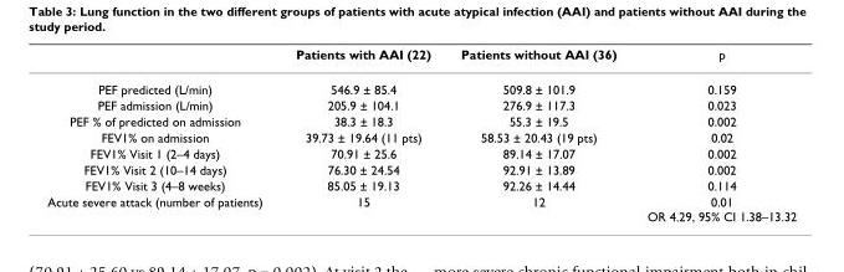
<table><thead><tr><td></td><td>Patients with AAI (22)</td><td>Patients without AAI (36)</td><td>p</td></tr></thead><tbody><tr><td>PEF predicted (L/min)</td><td>546.9 ± 85.4</td><td>509.8 ± 101.9</td><td>0.159</td></tr><tr><td>PEF admission (L/min)</td><td>205.9 ± 104.1</td><td>276.9 ± 117.3</td><td>0.023</td></tr><tr><td>PEF % of predicted on admission</td><td>38.3 ± 18.3</td><td>55.3 ± 19.5</td><td>0.002</td></tr><tr><td>FEV1% on admission</td><td>39.73 ± 19.64 (11 pts)</td><td>58.53 ± 20.43 (19 pts)</td><td>0.02</td></tr><tr><td>FEV1% Visit 1 (2–4 days)</td><td>70.91 ± 25.6</td><td>89.14 ± 17.07</td><td>0.002</td></tr><tr><td>FEV1% Visit 2 (10–14 days)</td><td>76.30 ± 24.54</td><td>92.91 ± 13.89</td><td>0.002</td></tr><tr><td>FEV1% Visit 3 (4–8 weeks)</td><td>85.05 ± 19.13</td><td>92.26 ± 14.44</td><td>0.114</td></tr><tr><td>Acute severe attack (number of patients)</td><td>15</td><td>12</td><td>0.01 OR 4.29, 95% CI 1.38–13.32</td></tr></tbody></table>